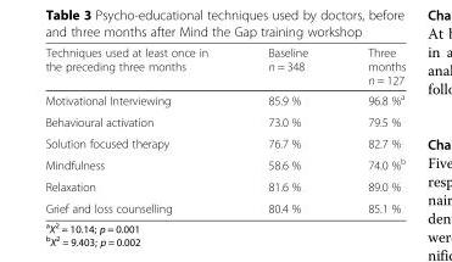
<table><thead><tr><td>Techniques used at least once in the preceding three months</td><td>Baseline n = 348</td><td>Three months n = 127</td></tr></thead><tbody><tr><td>Motivational Interviewing</td><td>85.9 %</td><td>96.8 %<sup>a</sup></td></tr><tr><td>Behavioural activation</td><td>73.0 %</td><td>79.5 %</td></tr><tr><td>Solution focused therapy</td><td>76.7 %</td><td>82.7 %</td></tr><tr><td>Mindfulness</td><td>58.6 %</td><td>74.0 %<sup>b</sup></td></tr><tr><td>Relaxation</td><td>81.6 %</td><td>89.0 %</td></tr><tr><td>Grief and loss counselling</td><td>80.4 %</td><td>85.1 %</td></tr></tbody></table>